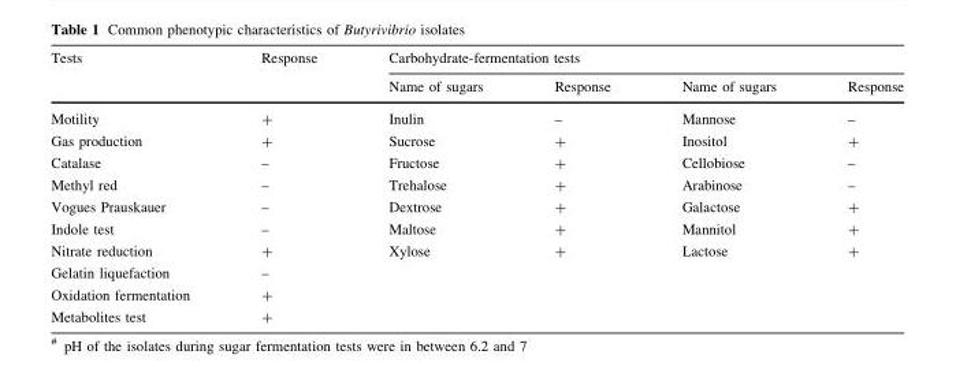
<table><thead><tr><td rowspan="2">Tests</td><td rowspan="2">Response</td><td colspan="4">Carbohydrate-fermentation tests</td></tr><tr><td>Name of sugars</td><td>Response</td><td>Name of sugars</td><td>Response</td></tr></thead><tbody><tr><td>Motility</td><td>+</td><td>Inulin</td><td>–</td><td>Mannose</td><td>–</td></tr><tr><td>Gas production</td><td>+</td><td>Sucrose</td><td>+</td><td>Inositol</td><td>+</td></tr><tr><td>Catalase</td><td>–</td><td>Fructose</td><td>+</td><td>Cellobiose</td><td>–</td></tr><tr><td>Methyl red</td><td>–</td><td>Trehalose</td><td>+</td><td>Arabinose</td><td>–</td></tr><tr><td>Vogues Prauskauer</td><td>–</td><td>Dextrose</td><td>+</td><td>Galactose</td><td>+</td></tr><tr><td>Indole test</td><td>–</td><td>Maltose</td><td>+</td><td>Mannitol</td><td>+</td></tr><tr><td>Nitrate reduction</td><td>+</td><td>Xylose</td><td>+</td><td>Lactose</td><td>+</td></tr><tr><td>Gelatin liquefaction</td><td>–</td><td></td><td></td><td></td><td></td></tr><tr><td>Oxidation fermentation</td><td>+</td><td></td><td></td><td></td><td></td></tr><tr><td>Metabolites test</td><td>+</td><td></td><td></td><td></td><td></td></tr></tbody></table>